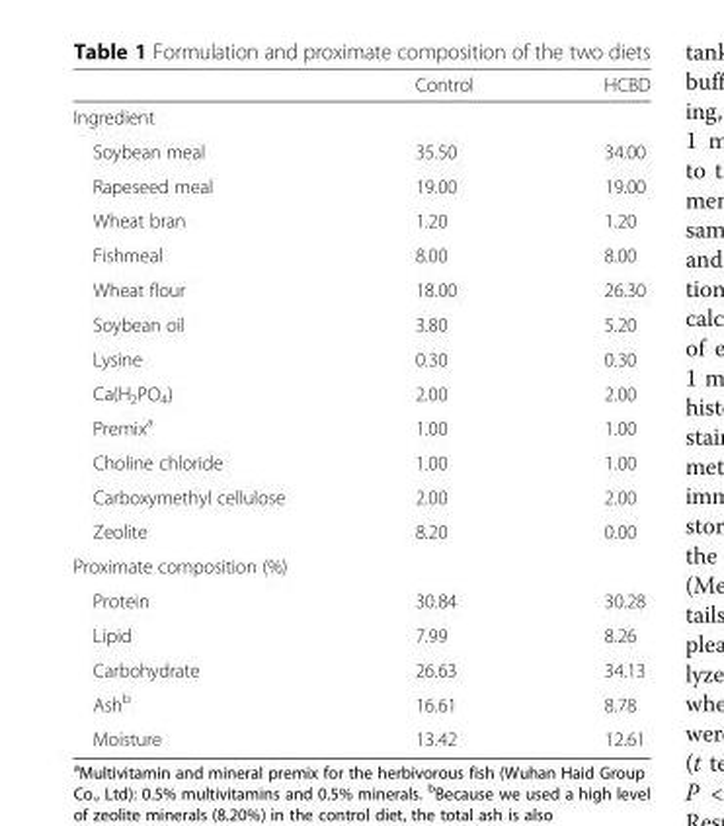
<table><thead><tr><td></td><td>Control</td><td>HCBD</td></tr></thead><tbody><tr><td colspan="3">Ingredient</td></tr><tr><td>Soybean meal</td><td>35.50</td><td>34.00</td></tr><tr><td>Rapeseed meal</td><td>19.00</td><td>19.00</td></tr><tr><td>Wheat bran</td><td>1.20</td><td>1.20</td></tr><tr><td>Fishmeal</td><td>8.00</td><td>8.00</td></tr><tr><td>Wheat flour</td><td>18.00</td><td>26.30</td></tr><tr><td>Soybean oil</td><td>3.80</td><td>5.20</td></tr><tr><td>Lysine</td><td>0.30</td><td>0.30</td></tr><tr><td>Ca(H<sub>2</sub>PO<sub>4</sub>)</td><td>2.00</td><td>2.00</td></tr><tr><td>Premix<sup>a</sup></td><td>1.00</td><td>1.00</td></tr><tr><td>Choline chloride</td><td>1.00</td><td>1.00</td></tr><tr><td>Carboxymethyl cellulose</td><td>2.00</td><td>2.00</td></tr><tr><td>Zeolite</td><td>8.20</td><td>0.00</td></tr><tr><td colspan="3">Proximate composition (%)</td></tr><tr><td>Protein</td><td>30.84</td><td>30.28</td></tr><tr><td>Lipid</td><td>7.99</td><td>8.26</td></tr><tr><td>Carbohydrate</td><td>26.63</td><td>34.13</td></tr><tr><td>Ash<sup>b</sup></td><td>16.61</td><td>8.78</td></tr><tr><td>Moisture</td><td>13.42</td><td>12.61</td></tr></tbody></table>